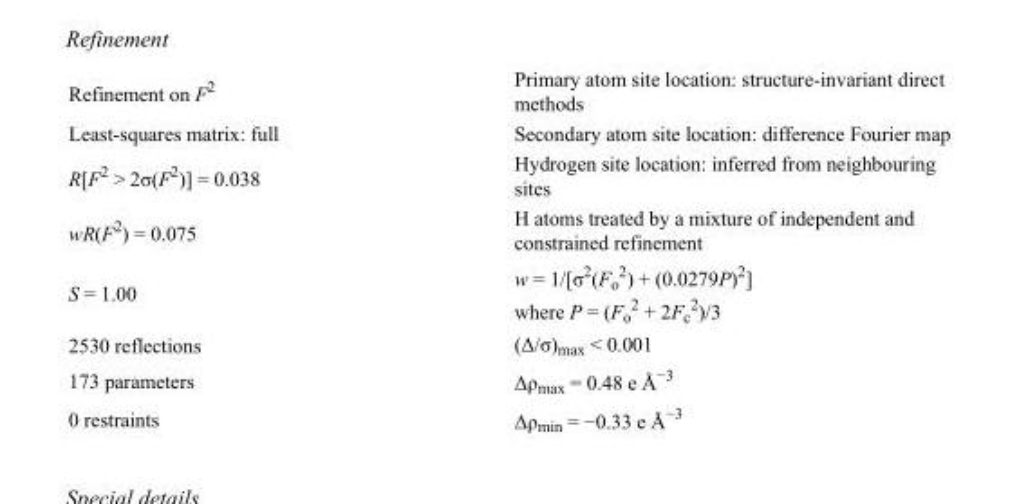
<table><tbody><tr><td>Refinement on F<sup>2</sup></td><td>Primary atom site location: structure-invariant direct methods</td></tr><tr><td>Least-squares matrix: full</td><td>Secondary atom site location: difference Fourier map</td></tr><tr><td>R[F<sup>2</sup> &gt; 2σ(F<sup>2</sup>)] = 0.038</td><td>Hydrogen site location: inferred from neighbouring sites</td></tr><tr><td>wR(F<sup>2</sup>) = 0.075</td><td>H atoms treated by a mixture of independent and constrained refinement</td></tr><tr><td>S = 1.00</td><td>w = 1/[σ<sup>2</sup>(F<sub>o</sub> <sup>2</sup>) + (0.0279P)<sup>2</sup>] where P = (F<sub>o</sub> <sup>2</sup> + 2F<sub>c</sub> <sup>2</sup>)/3</td></tr><tr><td>2530 reflections</td><td>(Δ/σ)<sub>max</sub> &lt; 0.001</td></tr><tr><td>173 parameters</td><td>Δρ<sub>max</sub> = 0.48 e Å<sup>−3</sup></td></tr><tr><td>0 restraints</td><td>Δρ<sub>min</sub> = −0.33 e Å<sup>−3</sup></td></tr></tbody></table>